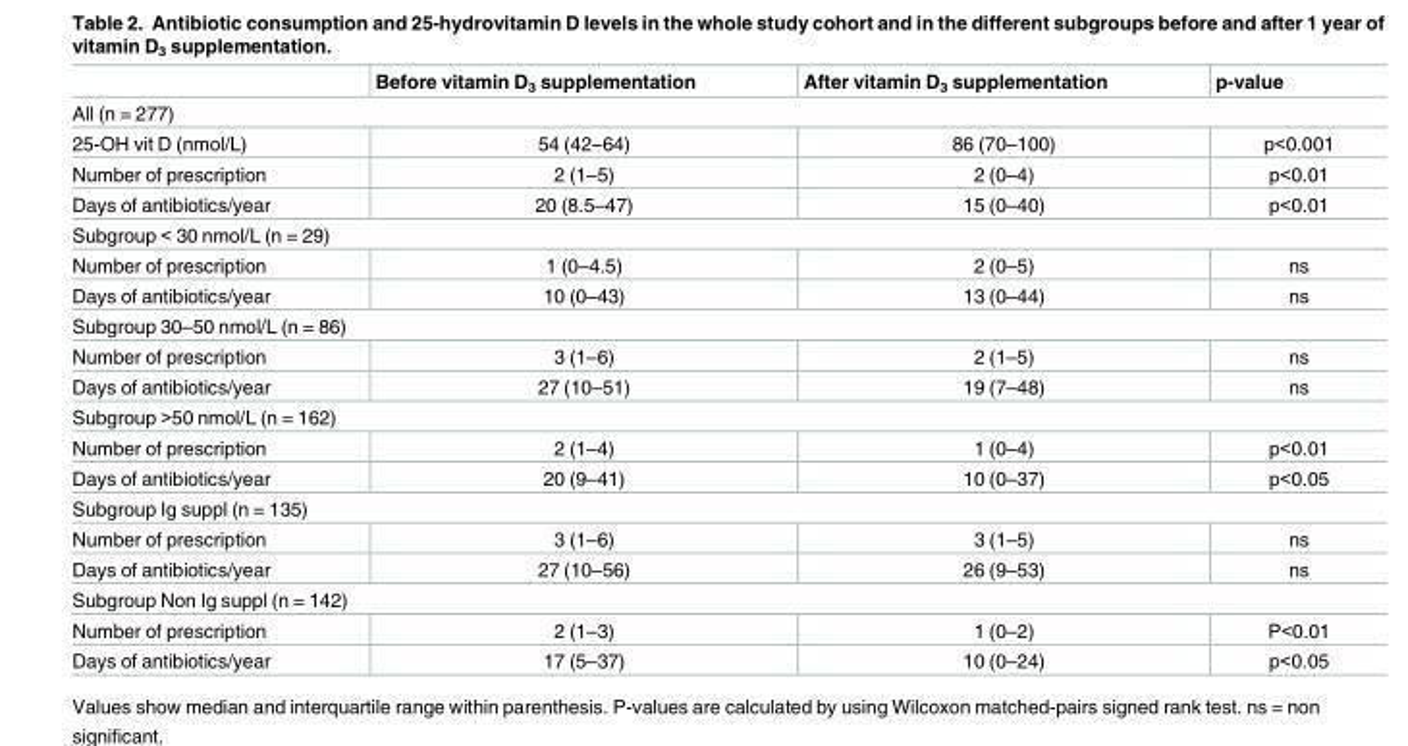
<table><thead><tr><td></td><td>Before vitamin D<sub>3</sub> supplementation</td><td>After vitamin D<sub>3</sub> supplementation</td><td>p-value</td></tr></thead><tbody><tr><td colspan="4">All (n = 277)</td></tr><tr><td>25-OH vit D (nmol/L)</td><td>54 (42–64)</td><td>86 (70–100)</td><td>p&lt;0.001</td></tr><tr><td>Number of prescription</td><td>2 (1–5)</td><td>2 (0–4)</td><td>p&lt;0.01</td></tr><tr><td>Days of antibiotics/year</td><td>20 (8.5–47)</td><td>15 (0–40)</td><td>p&lt;0.01</td></tr><tr><td colspan="4">Subgroup &lt; 30 nmol/L (n = 29)</td></tr><tr><td>Number of prescription</td><td>1 (0–4.5)</td><td>2 (0–5)</td><td>ns</td></tr><tr><td>Days of antibiotics/year</td><td>10 (0–43)</td><td>13 (0–44)</td><td>ns</td></tr><tr><td colspan="4">Subgroup 30–50 nmol/L (n = 86)</td></tr><tr><td>Number of prescription</td><td>3 (1–6)</td><td>2 (1–5)</td><td>ns</td></tr><tr><td>Days of antibiotics/year</td><td>27 (10–51)</td><td>19 (7–48)</td><td>ns</td></tr><tr><td colspan="4">Subgroup &gt;50 nmol/L (n = 162)</td></tr><tr><td>Number of prescription</td><td>2 (1–4)</td><td>1 (0–4)</td><td>p&lt;0.01</td></tr><tr><td>Days of antibiotics/year</td><td>20 (9–41)</td><td>10 (0–37)</td><td>p&lt;0.05</td></tr><tr><td colspan="4">Subgroup Ig suppl (n = 135)</td></tr><tr><td>Number of prescription</td><td>3 (1–6)</td><td>3 (1–5)</td><td>ns</td></tr><tr><td>Days of antibiotics/year</td><td>27 (10–56)</td><td>26 (9–53)</td><td>ns</td></tr><tr><td colspan="4">Subgroup Non Ig suppl (n = 142)</td></tr><tr><td>Number of prescription</td><td>2 (1–3)</td><td>1 (0–2)</td><td>P&lt;0.01</td></tr><tr><td>Days of antibiotics/year</td><td>17 (5–37)</td><td>10 (0–24)</td><td>p&lt;0.05</td></tr></tbody></table>